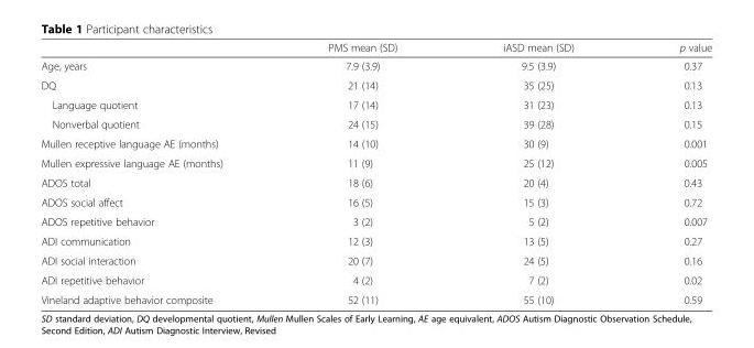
<table><thead><tr><td></td><td>PMS mean (SD)</td><td>iASD mean (SD)</td><td>p value</td></tr></thead><tbody><tr><td>Age, years</td><td>7.9 (3.9)</td><td>9.5 (3.9)</td><td>0.37</td></tr><tr><td>DQ</td><td>21 (14)</td><td>35 (25)</td><td>0.13</td></tr><tr><td>Language quotient</td><td>17 (14)</td><td>31 (23)</td><td>0.13</td></tr><tr><td>Nonverbal quotient</td><td>24 (15)</td><td>39 (28)</td><td>0.15</td></tr><tr><td>Mullen receptive language AE (months)</td><td>14 (10)</td><td>30 (9)</td><td>0.001</td></tr><tr><td>Mullen expressive language AE (months)</td><td>11 (9)</td><td>25 (12)</td><td>0.005</td></tr><tr><td>ADOS total</td><td>18 (6)</td><td>20 (4)</td><td>0.43</td></tr><tr><td>ADOS social affect</td><td>16 (5)</td><td>15 (3)</td><td>0.72</td></tr><tr><td>ADOS repetitive behavior</td><td>3 (2)</td><td>5 (2)</td><td>0.007</td></tr><tr><td>ADI communication</td><td>12 (3)</td><td>13 (5)</td><td>0.27</td></tr><tr><td>ADI social interaction</td><td>20 (7)</td><td>24 (5)</td><td>0.16</td></tr><tr><td>ADI repetitive behavior</td><td>4 (2)</td><td>7 (2)</td><td>0.02</td></tr><tr><td>Vineland adaptive behavior composite</td><td>52 (11)</td><td>55 (10)</td><td>0.59</td></tr></tbody></table>